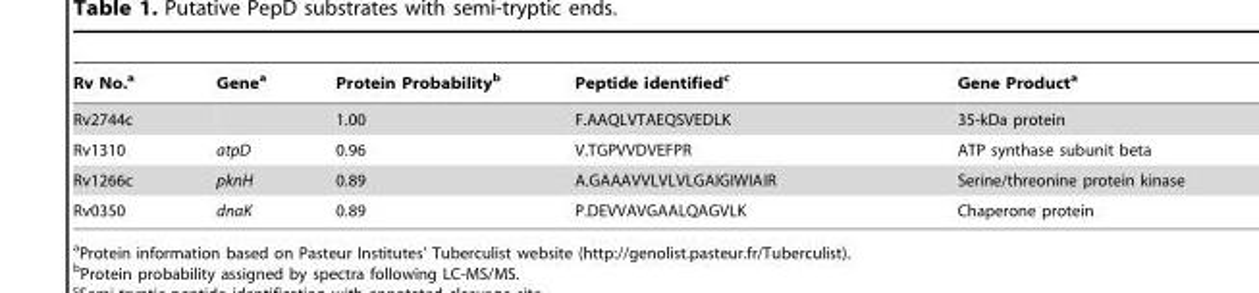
<table><thead><tr><td>Rv No.<sup>a</sup></td><td>Gene<sup>a</sup></td><td>Protein Probability<sup>b</sup></td><td>Peptide identified<sup>c</sup></td><td>Gene Product<sup>a</sup></td></tr></thead><tbody><tr><td>Rv2744c</td><td></td><td>1.00</td><td>F.AAQLVTAEQSVEDLK</td><td>35-kDa protein</td></tr><tr><td>Rv1310</td><td>atpD</td><td>0.96</td><td>V.TGPVVDVEFPR</td><td>ATP synthase subunit beta</td></tr><tr><td>Rv1266c</td><td>pknH</td><td>0.89</td><td>A.GAAAVVLVLVLGAIGIWIAIR</td><td>Serine/threonine protein kinase</td></tr><tr><td>Rv0350</td><td>dnaK</td><td>0.89</td><td>P.DEVVAVGAALQAGVLK</td><td>Chaperone protein</td></tr></tbody></table>